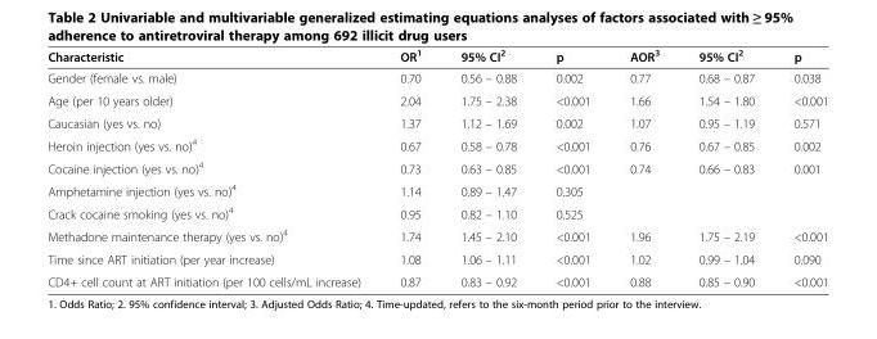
<table><thead><tr><td>Characteristic</td><td>OR<sup>1</sup></td><td>95% CI<sup>2</sup></td><td>p</td><td>AOR<sup>3</sup></td><td>95% CI<sup>2</sup></td><td>p</td></tr></thead><tbody><tr><td>Gender (female vs. male)</td><td>0.70</td><td>0.56 – 0.88</td><td>0.002</td><td>0.77</td><td>0.68 – 0.87</td><td>0.038</td></tr><tr><td>Age (per 10 years older)</td><td>2.04</td><td>1.75 – 2.38</td><td>&lt;0.001</td><td>1.66</td><td>1.54 – 1.80</td><td>&lt;0.001</td></tr><tr><td>Caucasian (yes vs. no)</td><td>1.37</td><td>1.12 – 1.69</td><td>0.002</td><td>1.07</td><td>0.95 – 1.19</td><td>0.571</td></tr><tr><td>Heroin injection (yes vs. no)<sup>4</sup></td><td>0.67</td><td>0.58 – 0.78</td><td>&lt;0.001</td><td>0.76</td><td>0.67 – 0.85</td><td>0.002</td></tr><tr><td>Cocaine injection (yes vs. no)<sup>4</sup></td><td>0.73</td><td>0.63 – 0.85</td><td>&lt;0.001</td><td>0.74</td><td>0.66 – 0.83</td><td>0.001</td></tr><tr><td>Amphetamine injection (yes vs. no)<sup>4</sup></td><td>1.14</td><td>0.89 – 1.47</td><td>0.305</td><td></td><td></td><td></td></tr><tr><td>Crack cocaine smoking (yes vs. no)<sup>4</sup></td><td>0.95</td><td>0.82 – 1.10</td><td>0.525</td><td></td><td></td><td></td></tr><tr><td>Methadone maintenance therapy (yes vs. no)<sup>4</sup></td><td>1.74</td><td>1.45 – 2.10</td><td>&lt;0.001</td><td>1.96</td><td>1.75 – 2.19</td><td>&lt;0.001</td></tr><tr><td>Time since ART initiation (per year increase)</td><td>1.08</td><td>1.06 – 1.11</td><td>&lt;0.001</td><td>1.02</td><td>0.99 – 1.04</td><td>0.090</td></tr><tr><td>CD4+ cell count at ART initiation (per 100 cells/mL increase)</td><td>0.87</td><td>0.83 – 0.92</td><td>&lt;0.001</td><td>0.88</td><td>0.85 – 0.90</td><td>&lt;0.001</td></tr></tbody></table>